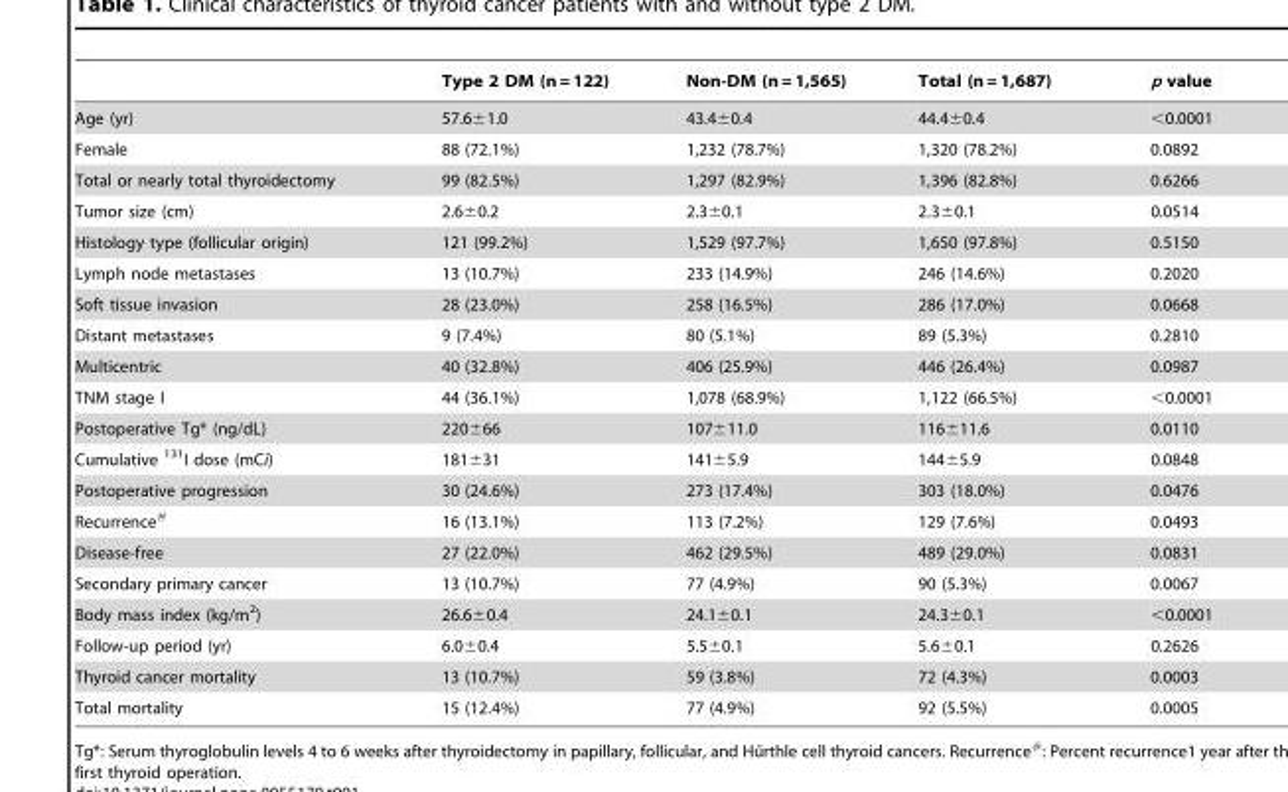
<table><thead><tr><td></td><td>Type 2 DM (n = 122)</td><td>Non-DM (n = 1,565)</td><td>Total (n = 1,687)</td><td>p value</td></tr></thead><tbody><tr><td>Age (yr)</td><td>57.6±1.0</td><td>43.4±0.4</td><td>44.4±0.4</td><td>&lt;0.0001</td></tr><tr><td>Female</td><td>88 (72.1%)</td><td>1,232 (78.7%)</td><td>1,320 (78.2%)</td><td>0.0892</td></tr><tr><td>Total or nearly total thyroidectomy</td><td>99 (82.5%)</td><td>1,297 (82.9%)</td><td>1,396 (82.8%)</td><td>0.6266</td></tr><tr><td>Tumor size (cm)</td><td>2.6±0.2</td><td>2.3±0.1</td><td>2.3±0.1</td><td>0.0514</td></tr><tr><td>Histology type (follicular origin)</td><td>121 (99.2%)</td><td>1,529 (97.7%)</td><td>1,650 (97.8%)</td><td>0.5150</td></tr><tr><td>Lymph node metastases</td><td>13 (10.7%)</td><td>233 (14.9%)</td><td>246 (14.6%)</td><td>0.2020</td></tr><tr><td>Soft tissue invasion</td><td>28 (23.0%)</td><td>258 (16.5%)</td><td>286 (17.0%)</td><td>0.0668</td></tr><tr><td>Distant metastases</td><td>9 (7.4%)</td><td>80 (5.1%)</td><td>89 (5.3%)</td><td>0.2810</td></tr><tr><td>Multicentric</td><td>40 (32.8%)</td><td>406 (25.9%)</td><td>446 (26.4%)</td><td>0.0987</td></tr><tr><td>TNM stage I</td><td>44 (36.1%)</td><td>1,078 (68.9%)</td><td>1,122 (66.5%)</td><td>&lt;0.0001</td></tr><tr><td>Postoperative Tg* (ng/dL)</td><td>220±66</td><td>107±11.0</td><td>116±11.6</td><td>0.0110</td></tr><tr><td>Cumulative <sup>131</sup>I dose (mCi)</td><td>181±31</td><td>141±5.9</td><td>144±5.9</td><td>0.0848</td></tr><tr><td>Postoperative progression</td><td>30 (24.6%)</td><td>273 (17.4%)</td><td>303 (18.0%)</td><td>0.0476</td></tr><tr><td>Recurrence<sup>#</sup></td><td>16 (13.1%)</td><td>113 (7.2%)</td><td>129 (7.6%)</td><td>0.0493</td></tr><tr><td>Disease-free</td><td>27 (22.0%)</td><td>462 (29.5%)</td><td>489 (29.0%)</td><td>0.0831</td></tr><tr><td>Secondary primary cancer</td><td>13 (10.7%)</td><td>77 (4.9%)</td><td>90 (5.3%)</td><td>0.0067</td></tr><tr><td>Body mass index (kg/m<sup>2</sup>)</td><td>26.6±0.4</td><td>24.1±0.1</td><td>24.3±0.1</td><td>&lt;0.0001</td></tr><tr><td>Follow-up period (yr)</td><td>6.0±0.4</td><td>5.5±0.1</td><td>5.6±0.1</td><td>0.2626</td></tr><tr><td>Thyroid cancer mortality</td><td>13 (10.7%)</td><td>59 (3.8%)</td><td>72 (4.3%)</td><td>0.0003</td></tr><tr><td>Total mortality</td><td>15 (12.4%)</td><td>77 (4.9%)</td><td>92 (5.5%)</td><td>0.0005</td></tr></tbody></table>